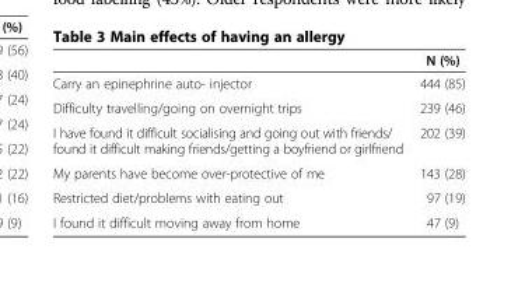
<table><thead><tr><td></td><td>N (%)</td></tr></thead><tbody><tr><td>Carry an epinephrine auto- injector</td><td>444 (85)</td></tr><tr><td>Difficulty travelling/going on overnight trips</td><td>239 (46)</td></tr><tr><td>I have found it difficult socialising and going out with friends/ found it difficult making friends/getting a boyfriend or girlfriend</td><td>202 (39)</td></tr><tr><td>My parents have become over-protective of me</td><td>143 (28)</td></tr><tr><td>Restricted diet/problems with eating out</td><td>97 (19)</td></tr><tr><td>I found it difficult moving away from home</td><td>47 (9)</td></tr></tbody></table>